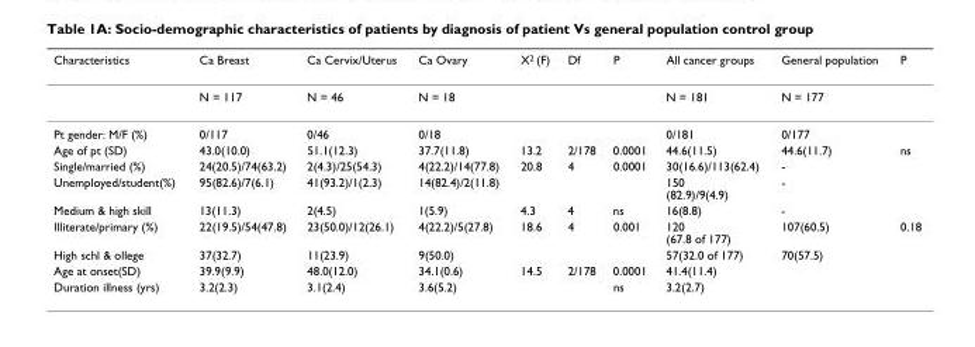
<table><thead><tr><td>Characteristics</td><td>Ca Breast</td><td>Ca Cervix/Uterus</td><td>Ca Ovary</td><td>X2 (F)</td><td>Df</td><td>P</td><td>All cancer groups</td><td>General population</td><td>P</td></tr></thead><tbody><tr><td></td><td>N = 117</td><td>N = 46</td><td>N = 18</td><td></td><td></td><td></td><td>N = 181</td><td>N = 177</td><td></td></tr><tr><td>Pt gender: M/F (%)</td><td>0/117</td><td>0/46</td><td>0/18</td><td></td><td></td><td></td><td>0/181</td><td>0/177</td><td></td></tr><tr><td>Age of pt (SD)</td><td>43.0(10.0)</td><td>51.1(12.3)</td><td>37.7(11.8)</td><td>13.2</td><td>2/178</td><td>0.0001</td><td>44.6(11.5)</td><td>44.6(11.7)</td><td>ns</td></tr><tr><td>Single/married (%)</td><td>24(20.5)/74(63.2)</td><td>2(4.3)/25(54.3)</td><td>4(22.2)/14(77.8)</td><td>20.8</td><td>4</td><td>0.0001</td><td>30(16.6)/113(62.4)</td><td>-</td><td></td></tr><tr><td>Unemployed/student(%)</td><td>95(82.6)/7(6.1)</td><td>41(93.2)/1(2.3)</td><td>14(82.4)/2(11.8)</td><td></td><td></td><td></td><td>150 (82.9)/9(4.9)</td><td>-</td><td></td></tr><tr><td>Medium &amp; high skill</td><td>13(11.3)</td><td>2(4.5)</td><td>1(5.9)</td><td>4.3</td><td>4</td><td>ns</td><td>16(8.8)</td><td>-</td><td></td></tr><tr><td>Illiterate/primary (%)</td><td>22(19.5)/54(47.8)</td><td>23(50.0)/12(26.1)</td><td>4(22.2)/5(27.8)</td><td>18.6</td><td>4</td><td>0.001</td><td>120 (67.8 of 177)</td><td>107(60.5)</td><td>0.18</td></tr><tr><td>High schl &amp; ollege</td><td>37(32.7)</td><td>11(23.9)</td><td>9(50.0)</td><td></td><td></td><td></td><td>57(32.0 of 177)</td><td>70(57.5)</td><td></td></tr><tr><td>Age at onset(SD)</td><td>39.9(9.9)</td><td>48.0(12.0)</td><td>34.1(0.6)</td><td>14.5</td><td>2/178</td><td>0.0001</td><td>41.4(11.4)</td><td></td><td></td></tr><tr><td>Duration illness (yrs)</td><td>3.2(2.3)</td><td>3.1(2.4)</td><td>3.6(5.2)</td><td></td><td></td><td>ns</td><td>3.2(2.7)</td><td></td><td></td></tr></tbody></table>